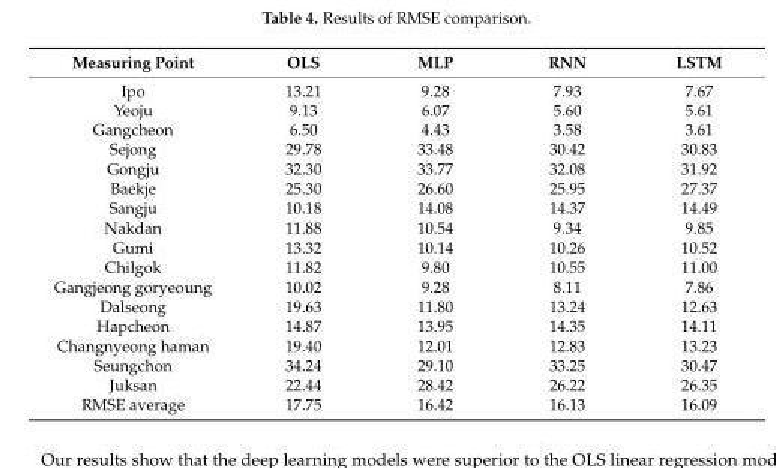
<table><thead><tr><td>Measuring Point</td><td>OLS</td><td>MLP</td><td>RNN</td><td>LSTM</td></tr></thead><tbody><tr><td>Ipo</td><td>13.21</td><td>9.28</td><td>7.93</td><td>7.67</td></tr><tr><td>Yeoju</td><td>9.13</td><td>6.07</td><td>5.60</td><td>5.61</td></tr><tr><td>Gangcheon</td><td>6.50</td><td>4.43</td><td>3.58</td><td>3.61</td></tr><tr><td>Sejong</td><td>29.78</td><td>33.48</td><td>30.42</td><td>30.83</td></tr><tr><td>Gongju</td><td>32.30</td><td>33.77</td><td>32.08</td><td>31.92</td></tr><tr><td>Baekje</td><td>25.30</td><td>26.60</td><td>25.95</td><td>27.37</td></tr><tr><td>Sangju</td><td>10.18</td><td>14.08</td><td>14.37</td><td>14.49</td></tr><tr><td>Nakdan</td><td>11.88</td><td>10.54</td><td>9.34</td><td>9.85</td></tr><tr><td>Gumi</td><td>13.32</td><td>10.14</td><td>10.26</td><td>10.52</td></tr><tr><td>Chilgok</td><td>11.82</td><td>9.80</td><td>10.55</td><td>11.00</td></tr><tr><td>Gangjeong goryeoung</td><td>10.02</td><td>9.28</td><td>8.11</td><td>7.86</td></tr><tr><td>Dalseong</td><td>19.63</td><td>11.80</td><td>13.24</td><td>12.63</td></tr><tr><td>Hapcheon</td><td>14.87</td><td>13.95</td><td>14.35</td><td>14.11</td></tr><tr><td>Changnyeong haman</td><td>19.40</td><td>12.01</td><td>12.83</td><td>13.23</td></tr><tr><td>Seungchon</td><td>34.24</td><td>29.10</td><td>33.25</td><td>30.47</td></tr><tr><td>Juksan</td><td>22.44</td><td>28.42</td><td>26.22</td><td>26.35</td></tr><tr><td>RMSE average</td><td>17.75</td><td>16.42</td><td>16.13</td><td>16.09</td></tr></tbody></table>